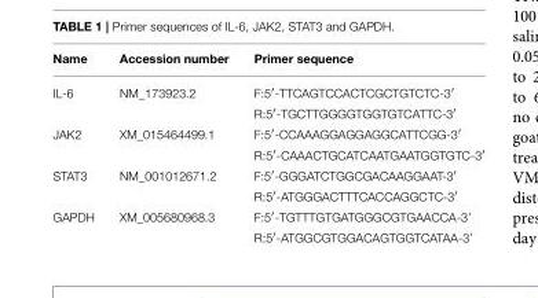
<table><thead><tr><td>Name</td><td>Accession number</td><td>Primer sequence</td></tr></thead><tbody><tr><td rowspan="2">IL-6</td><td>NM_173923.2</td><td>F:5′-TTCAGTCCACTCGCTGTCTC-3′</td></tr><tr><td></td><td>R:5′-TGCTTGGGGTGGTGTCATTC-3′</td></tr><tr><td rowspan="2">JAK2</td><td>XM_015464499.1</td><td>F:5′-CCAAAGGAGGAGGCATTCGG-3′</td></tr><tr><td></td><td>R:5′-CAAACTGCATCAATGAATGGTGTC-3′</td></tr><tr><td rowspan="2">STAT3</td><td>NM_001012671.2</td><td>F:5′-GGGATCTGGCGACAAGGAAT-3′</td></tr><tr><td></td><td>R:5′-ATGGGACTTTCACCAGGCTC-3′</td></tr><tr><td rowspan="2">GAPDH</td><td>XM_005680968.3</td><td>F:5′-TGTTTGTGATGGGCGTGAACCA-3’</td></tr><tr><td></td><td>R:5′-ATGGCGTGGACAGTGGTCATAA-3’</td></tr></tbody></table>